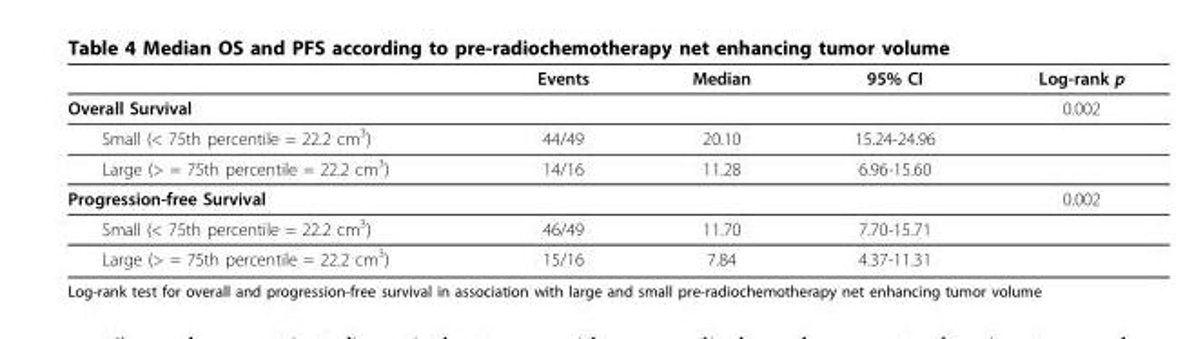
<table><thead><tr><td></td><td>Events</td><td>Median</td><td>95% CI</td><td>Log-rank p</td></tr></thead><tbody><tr><td>Overall Survival</td><td></td><td></td><td></td><td>0.002</td></tr><tr><td>Small (&lt; 75th percentile = 22.2 cm<sup>3</sup>)</td><td>44/49</td><td>20.10</td><td>15.24-24.96</td><td></td></tr><tr><td>Large (&gt; = 75th percentile = 22.2 cm<sup>3</sup>)</td><td>14/16</td><td>11.28</td><td>6.96-15.60</td><td></td></tr><tr><td>Progression-free Survival</td><td></td><td></td><td></td><td>0.002</td></tr><tr><td>Small (&lt; 75th percentile = 22.2 cm<sup>3</sup>)</td><td>46/49</td><td>11.70</td><td>7.70-15.71</td><td></td></tr><tr><td>Large (&gt; = 75th percentile = 22.2 cm<sup>3</sup>)</td><td>15/16</td><td>7.84</td><td>4.37-11.31</td><td></td></tr></tbody></table>